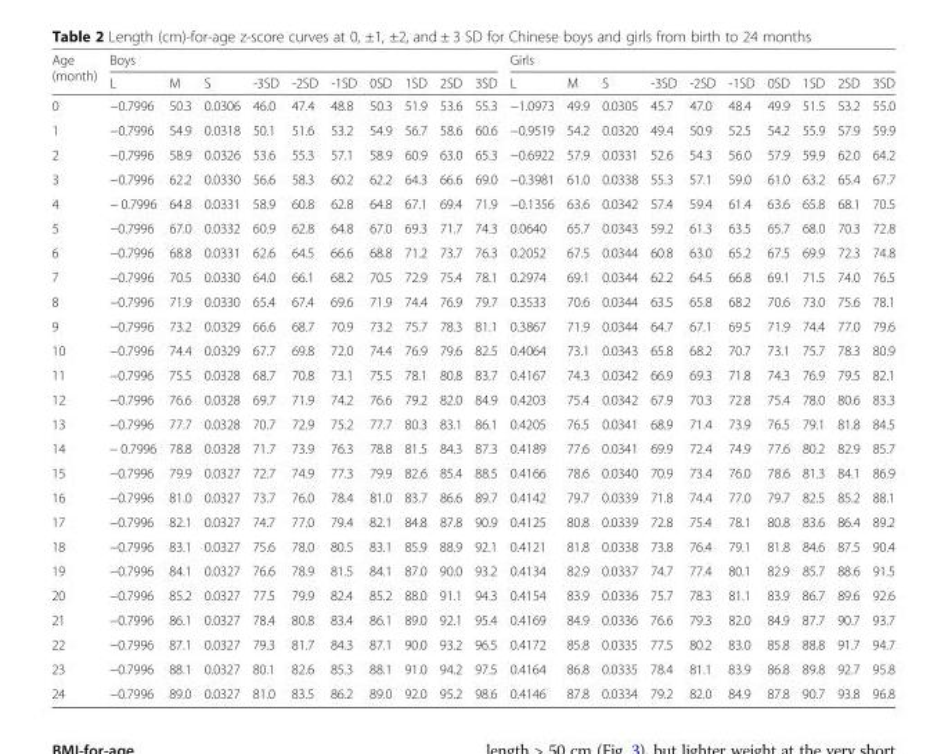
<table><thead><tr><td rowspan="2">Age (month)</td><td colspan="10">Boys</td><td colspan="10">Girls</td></tr><tr><td>L</td><td>M</td><td>S</td><td>-3SD</td><td>-2SD</td><td>-1SD</td><td>0SD</td><td>1SD</td><td>2SD</td><td>3SD</td><td>L</td><td>M</td><td>S</td><td>-3SD</td><td>-2SD</td><td>-1SD</td><td>0SD</td><td>1SD</td><td>2SD</td><td>3SD</td></tr></thead><tbody><tr><td>0</td><td>−0.7996</td><td>50.3</td><td>0.0306</td><td>46.0</td><td>47.4</td><td>48.8</td><td>50.3</td><td>51.9</td><td>53.6</td><td>55.3</td><td>−1.0973</td><td>49.9</td><td>0.0305</td><td>45.7</td><td>47.0</td><td>48.4</td><td>49.9</td><td>51.5</td><td>53.2</td><td>55.0</td></tr><tr><td>1</td><td>−0.7996</td><td>54.9</td><td>0.0318</td><td>50.1</td><td>51.6</td><td>53.2</td><td>54.9</td><td>56.7</td><td>58.6</td><td>60.6</td><td>−0.9519</td><td>54.2</td><td>0.0320</td><td>49.4</td><td>50.9</td><td>52.5</td><td>54.2</td><td>55.9</td><td>57.9</td><td>59.9</td></tr><tr><td>2</td><td>−0.7996</td><td>58.9</td><td>0.0326</td><td>53.6</td><td>55.3</td><td>57.1</td><td>58.9</td><td>60.9</td><td>63.0</td><td>65.3</td><td>−0.6922</td><td>57.9</td><td>0.0331</td><td>52.6</td><td>54.3</td><td>56.0</td><td>57.9</td><td>59.9</td><td>62.0</td><td>64.2</td></tr><tr><td>3</td><td>−0.7996</td><td>62.2</td><td>0.0330</td><td>56.6</td><td>58.3</td><td>60.2</td><td>62.2</td><td>64.3</td><td>66.6</td><td>69.0</td><td>−0.3981</td><td>61.0</td><td>0.0338</td><td>55.3</td><td>57.1</td><td>59.0</td><td>61.0</td><td>63.2</td><td>65.4</td><td>67.7</td></tr><tr><td>4</td><td>− 0.7996</td><td>64.8</td><td>0.0331</td><td>58.9</td><td>60.8</td><td>62.8</td><td>64.8</td><td>67.1</td><td>69.4</td><td>71.9</td><td>−0.1356</td><td>63.6</td><td>0.0342</td><td>57.4</td><td>59.4</td><td>61.4</td><td>63.6</td><td>65.8</td><td>68.1</td><td>70.5</td></tr><tr><td>5</td><td>−0.7996</td><td>67.0</td><td>0.0332</td><td>60.9</td><td>62.8</td><td>64.8</td><td>67.0</td><td>69.3</td><td>71.7</td><td>74.3</td><td>0.0640</td><td>65.7</td><td>0.0343</td><td>59.2</td><td>61.3</td><td>63.5</td><td>65.7</td><td>68.0</td><td>70.3</td><td>72.8</td></tr><tr><td>6</td><td>−0.7996</td><td>68.8</td><td>0.0331</td><td>62.6</td><td>64.5</td><td>66.6</td><td>68.8</td><td>71.2</td><td>73.7</td><td>76.3</td><td>0.2052</td><td>67.5</td><td>0.0344</td><td>60.8</td><td>63.0</td><td>65.2</td><td>67.5</td><td>69.9</td><td>72.3</td><td>74.8</td></tr><tr><td>7</td><td>−0.7996</td><td>70.5</td><td>0.0330</td><td>64.0</td><td>66.1</td><td>68.2</td><td>70.5</td><td>72.9</td><td>75.4</td><td>78.1</td><td>0.2974</td><td>69.1</td><td>0.0344</td><td>62.2</td><td>64.5</td><td>66.8</td><td>69.1</td><td>71.5</td><td>74.0</td><td>76.5</td></tr><tr><td>8</td><td>−0.7996</td><td>71.9</td><td>0.0330</td><td>65.4</td><td>67.4</td><td>69.6</td><td>71.9</td><td>74.4</td><td>76.9</td><td>79.7</td><td>0.3533</td><td>70.6</td><td>0.0344</td><td>63.5</td><td>65.8</td><td>68.2</td><td>70.6</td><td>73.0</td><td>75.6</td><td>78.1</td></tr><tr><td>9</td><td>−0.7996</td><td>73.2</td><td>0.0329</td><td>66.6</td><td>68.7</td><td>70.9</td><td>73.2</td><td>75.7</td><td>78.3</td><td>81.1</td><td>0.3867</td><td>71.9</td><td>0.0344</td><td>64.7</td><td>67.1</td><td>69.5</td><td>71.9</td><td>74.4</td><td>77.0</td><td>79.6</td></tr><tr><td>10</td><td>−0.7996</td><td>74.4</td><td>0.0329</td><td>67.7</td><td>69.8</td><td>72.0</td><td>74.4</td><td>76.9</td><td>79.6</td><td>82.5</td><td>0.4064</td><td>73.1</td><td>0.0343</td><td>65.8</td><td>68.2</td><td>70.7</td><td>73.1</td><td>75.7</td><td>78.3</td><td>80.9</td></tr><tr><td>11</td><td>−0.7996</td><td>75.5</td><td>0.0328</td><td>68.7</td><td>70.8</td><td>73.1</td><td>75.5</td><td>78.1</td><td>80.8</td><td>83.7</td><td>0.4167</td><td>74.3</td><td>0.0342</td><td>66.9</td><td>69.3</td><td>71.8</td><td>74.3</td><td>76.9</td><td>79.5</td><td>82.1</td></tr><tr><td>12</td><td>−0.7996</td><td>76.6</td><td>0.0328</td><td>69.7</td><td>71.9</td><td>74.2</td><td>76.6</td><td>79.2</td><td>82.0</td><td>84.9</td><td>0.4203</td><td>75.4</td><td>0.0342</td><td>67.9</td><td>70.3</td><td>72.8</td><td>75.4</td><td>78.0</td><td>80.6</td><td>83.3</td></tr><tr><td>13</td><td>−0.7996</td><td>77.7</td><td>0.0328</td><td>70.7</td><td>72.9</td><td>75.2</td><td>77.7</td><td>80.3</td><td>83.1</td><td>86.1</td><td>0.4205</td><td>76.5</td><td>0.0341</td><td>68.9</td><td>71.4</td><td>73.9</td><td>76.5</td><td>79.1</td><td>81.8</td><td>84.5</td></tr><tr><td>14</td><td>− 0.7996</td><td>78.8</td><td>0.0328</td><td>71.7</td><td>73.9</td><td>76.3</td><td>78.8</td><td>81.5</td><td>84.3</td><td>87.3</td><td>0.4189</td><td>77.6</td><td>0.0341</td><td>69.9</td><td>72.4</td><td>74.9</td><td>77.6</td><td>80.2</td><td>82.9</td><td>85.7</td></tr><tr><td>15</td><td>−0.7996</td><td>79.9</td><td>0.0327</td><td>72.7</td><td>74.9</td><td>77.3</td><td>79.9</td><td>82.6</td><td>85.4</td><td>88.5</td><td>0.4166</td><td>78.6</td><td>0.0340</td><td>70.9</td><td>73.4</td><td>76.0</td><td>78.6</td><td>81.3</td><td>84.1</td><td>86.9</td></tr><tr><td>16</td><td>−0.7996</td><td>81.0</td><td>0.0327</td><td>73.7</td><td>76.0</td><td>78.4</td><td>81.0</td><td>83.7</td><td>86.6</td><td>89.7</td><td>0.4142</td><td>79.7</td><td>0.0339</td><td>71.8</td><td>74.4</td><td>77.0</td><td>79.7</td><td>82.5</td><td>85.2</td><td>88.1</td></tr><tr><td>17</td><td>−0.7996</td><td>82.1</td><td>0.0327</td><td>74.7</td><td>77.0</td><td>79.4</td><td>82.1</td><td>84.8</td><td>87.8</td><td>90.9</td><td>0.4125</td><td>80.8</td><td>0.0339</td><td>72.8</td><td>75.4</td><td>78.1</td><td>80.8</td><td>83.6</td><td>86.4</td><td>89.2</td></tr><tr><td>18</td><td>−0.7996</td><td>83.1</td><td>0.0327</td><td>75.6</td><td>78.0</td><td>80.5</td><td>83.1</td><td>85.9</td><td>88.9</td><td>92.1</td><td>0.4121</td><td>81.8</td><td>0.0338</td><td>73.8</td><td>76.4</td><td>79.1</td><td>81.8</td><td>84.6</td><td>87.5</td><td>90.4</td></tr><tr><td>19</td><td>−0.7996</td><td>84.1</td><td>0.0327</td><td>76.6</td><td>78.9</td><td>81.5</td><td>84.1</td><td>87.0</td><td>90.0</td><td>93.2</td><td>0.4134</td><td>82.9</td><td>0.0337</td><td>74.7</td><td>77.4</td><td>80.1</td><td>82.9</td><td>85.7</td><td>88.6</td><td>91.5</td></tr><tr><td>20</td><td>−0.7996</td><td>85.2</td><td>0.0327</td><td>77.5</td><td>79.9</td><td>82.4</td><td>85.2</td><td>88.0</td><td>91.1</td><td>94.3</td><td>0.4154</td><td>83.9</td><td>0.0336</td><td>75.7</td><td>78.3</td><td>81.1</td><td>83.9</td><td>86.7</td><td>89.6</td><td>92.6</td></tr><tr><td>21</td><td>−0.7996</td><td>86.1</td><td>0.0327</td><td>78.4</td><td>80.8</td><td>83.4</td><td>86.1</td><td>89.0</td><td>92.1</td><td>95.4</td><td>0.4169</td><td>84.9</td><td>0.0336</td><td>76.6</td><td>79.3</td><td>82.0</td><td>84.9</td><td>87.7</td><td>90.7</td><td>93.7</td></tr><tr><td>22</td><td>−0.7996</td><td>87.1</td><td>0.0327</td><td>79.3</td><td>81.7</td><td>84.3</td><td>87.1</td><td>90.0</td><td>93.2</td><td>96.5</td><td>0.4172</td><td>85.8</td><td>0.0335</td><td>77.5</td><td>80.2</td><td>83.0</td><td>85.8</td><td>88.8</td><td>91.7</td><td>94.7</td></tr><tr><td>23</td><td>−0.7996</td><td>88.1</td><td>0.0327</td><td>80.1</td><td>82.6</td><td>85.3</td><td>88.1</td><td>91.0</td><td>94.2</td><td>97.5</td><td>0.4164</td><td>86.8</td><td>0.0335</td><td>78.4</td><td>81.1</td><td>83.9</td><td>86.8</td><td>89.8</td><td>92.7</td><td>95.8</td></tr><tr><td>24</td><td>−0.7996</td><td>89.0</td><td>0.0327</td><td>81.0</td><td>83.5</td><td>86.2</td><td>89.0</td><td>92.0</td><td>95.2</td><td>98.6</td><td>0.4146</td><td>87.8</td><td>0.0334</td><td>79.2</td><td>82.0</td><td>84.9</td><td>87.8</td><td>90.7</td><td>93.8</td><td>96.8</td></tr></tbody></table>